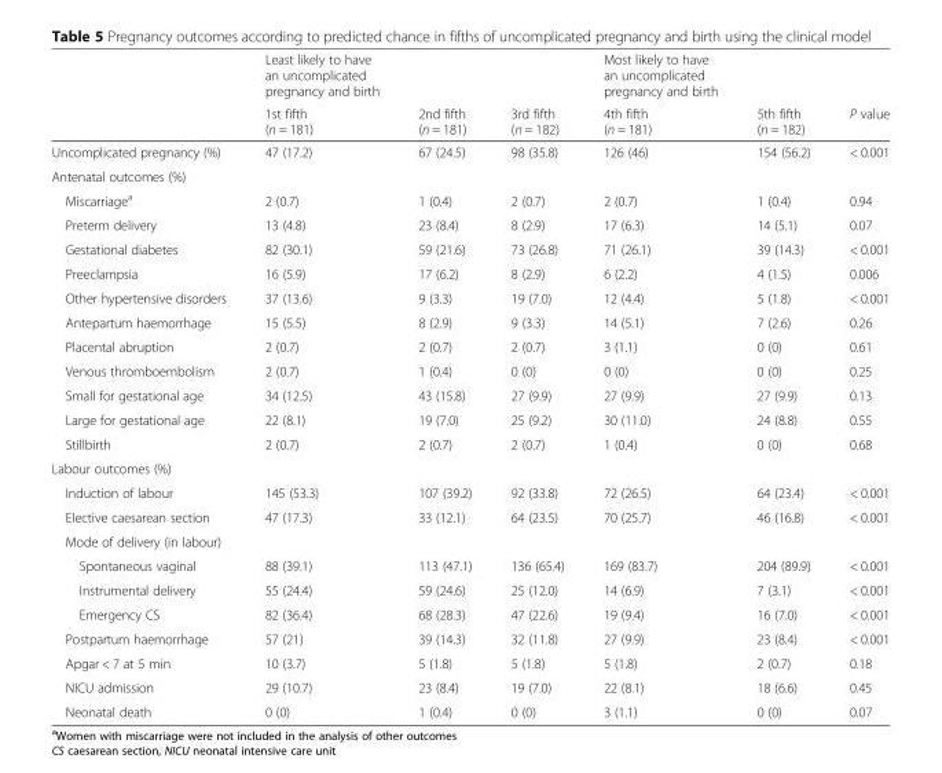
<table><thead><tr><td rowspan="2"></td><td rowspan="2">Least likely to have an uncomplicated pregnancy and birth 1st fifth (n = 181)</td><td rowspan="2">2nd fifth (n = 181)</td><td rowspan="2">3rd fifth (n = 182)</td><td rowspan="2">Most likely to have an uncomplicated pregnancy and birth 4th fifth (n = 181)</td><td rowspan="2">5th fifth (n = 182)</td><td rowspan="2">P value</td></tr><tr></tr></thead><tbody><tr><td>Uncomplicated pregnancy (%)</td><td>47 (17.2)</td><td>67 (24.5)</td><td>98 (35.8)</td><td>126 (46)</td><td>154 (56.2)</td><td>&lt; 0.001</td></tr><tr><td colspan="7">Antenatal outcomes (%)</td></tr><tr><td>Miscarriage<sup>a</sup></td><td>2 (0.7)</td><td>1 (0.4)</td><td>2 (0.7)</td><td>2 (0.7)</td><td>1 (0.4)</td><td>0.94</td></tr><tr><td>Preterm delivery</td><td>13 (4.8)</td><td>23 (8.4)</td><td>8 (2.9)</td><td>17 (6.3)</td><td>14 (5.1)</td><td>0.07</td></tr><tr><td>Gestational diabetes</td><td>82 (30.1)</td><td>59 (21.6)</td><td>73 (26.8)</td><td>71 (26.1)</td><td>39 (14.3)</td><td>&lt; 0.001</td></tr><tr><td>Preeclampsia</td><td>16 (5.9)</td><td>17 (6.2)</td><td>8 (2.9)</td><td>6 (2.2)</td><td>4 (1.5)</td><td>0.006</td></tr><tr><td>Other hypertensive disorders</td><td>37 (13.6)</td><td>9 (3.3)</td><td>19 (7.0)</td><td>12 (4.4)</td><td>5 (1.8)</td><td>&lt; 0.001</td></tr><tr><td>Antepartum haemorrhage</td><td>15 (5.5)</td><td>8 (2.9)</td><td>9 (3.3)</td><td>14 (5.1)</td><td>7 (2.6)</td><td>0.26</td></tr><tr><td>Placental abruption</td><td>2 (0.7)</td><td>2 (0.7)</td><td>2 (0.7)</td><td>3 (1.1)</td><td>0 (0)</td><td>0.61</td></tr><tr><td>Venous thromboembolism</td><td>2 (0.7)</td><td>1 (0.4)</td><td>0 (0)</td><td>0 (0)</td><td>0 (0)</td><td>0.25</td></tr><tr><td>Small for gestational age</td><td>34 (12.5)</td><td>43 (15.8)</td><td>27 (9.9)</td><td>27 (9.9)</td><td>27 (9.9)</td><td>0.13</td></tr><tr><td>Large for gestational age</td><td>22 (8.1)</td><td>19 (7.0)</td><td>25 (9.2)</td><td>30 (11.0)</td><td>24 (8.8)</td><td>0.55</td></tr><tr><td>Stillbirth</td><td>2 (0.7)</td><td>2 (0.7)</td><td>2 (0.7)</td><td>1 (0.4)</td><td>0 (0)</td><td>0.68</td></tr><tr><td colspan="7">Labour outcomes (%)</td></tr><tr><td>Induction of labour</td><td>145 (53.3)</td><td>107 (39.2)</td><td>92 (33.8)</td><td>72 (26.5)</td><td>64 (23.4)</td><td>&lt; 0.001</td></tr><tr><td>Elective caesarean section</td><td>47 (17.3)</td><td>33 (12.1)</td><td>64 (23.5)</td><td>70 (25.7)</td><td>46 (16.8)</td><td>&lt; 0.001</td></tr><tr><td colspan="7">Mode of delivery (in labour)</td></tr><tr><td>Spontaneous vaginal</td><td>88 (39.1)</td><td>113 (47.1)</td><td>136 (65.4)</td><td>169 (83.7)</td><td>204 (89.9)</td><td>&lt; 0.001</td></tr><tr><td>Instrumental delivery</td><td>55 (24.4)</td><td>59 (24.6)</td><td>25 (12.0)</td><td>14 (6.9)</td><td>7 (3.1)</td><td>&lt; 0.001</td></tr><tr><td>Emergency CS</td><td>82 (36.4)</td><td>68 (28.3)</td><td>47 (22.6)</td><td>19 (9.4)</td><td>16 (7.0)</td><td>&lt; 0.001</td></tr><tr><td>Postpartum haemorrhage</td><td>57 (21)</td><td>39 (14.3)</td><td>32 (11.8)</td><td>27 (9.9)</td><td>23 (8.4)</td><td>&lt; 0.001</td></tr><tr><td>Apgar &lt; 7 at 5 min</td><td>10 (3.7)</td><td>5 (1.8)</td><td>5 (1.8)</td><td>5 (1.8)</td><td>2 (0.7)</td><td>0.18</td></tr><tr><td>NICU admission</td><td>29 (10.7)</td><td>23 (8.4)</td><td>19 (7.0)</td><td>22 (8.1)</td><td>18 (6.6)</td><td>0.45</td></tr><tr><td>Neonatal death</td><td>0 (0)</td><td>1 (0.4)</td><td>0 (0)</td><td>3 (1.1)</td><td>0 (0)</td><td>0.07</td></tr></tbody></table>